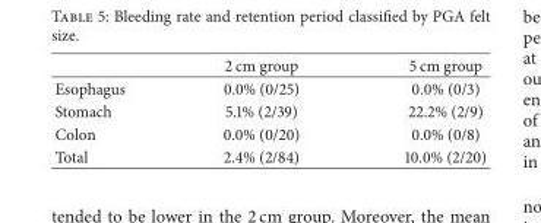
<table><thead><tr><td></td><td>2 cm group</td><td>5 cm group</td></tr></thead><tbody><tr><td>Esophagus</td><td>0.0% (0/25)</td><td>0.0% (0/3)</td></tr><tr><td>Stomach</td><td>5.1% (2/39)</td><td>22.2% (2/9)</td></tr><tr><td>Colon</td><td>0.0% (0/20)</td><td>0.0% (0/8)</td></tr><tr><td>Total</td><td>2.4% (2/84)</td><td>10.0% (2/20)</td></tr></tbody></table>